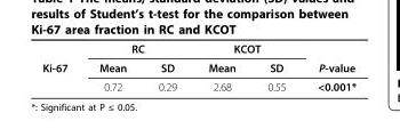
<table><thead><tr><td rowspan="2">Ki-67</td><td colspan="2">RC</td><td colspan="2">KCOT</td><td rowspan="2">P-value</td></tr><tr><td>Mean</td><td>SD</td><td>Mean</td><td>SD</td></tr></thead><tbody><tr><td></td><td>0.72</td><td>0.29</td><td>2.68</td><td>0.55</td><td>&lt;0.001*</td></tr></tbody></table>